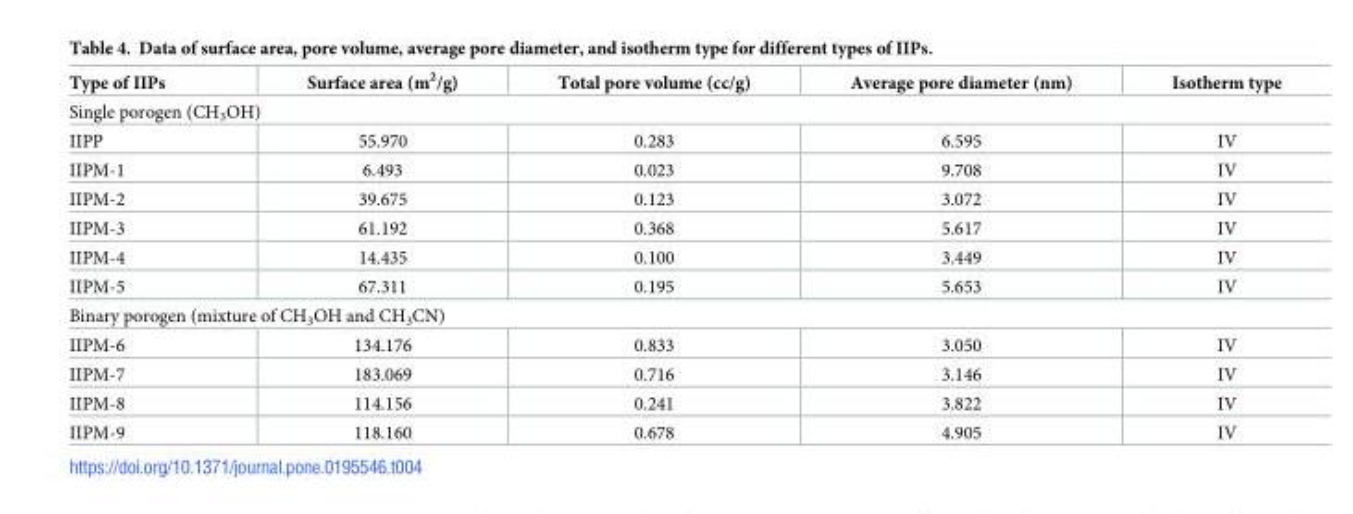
<table><thead><tr><td>Type of IIPs</td><td>Surface area (m<sup>2</sup>/g)</td><td>Total pore volume (cc/g)</td><td>Average pore diameter (nm)</td><td>Isotherm type</td></tr></thead><tbody><tr><td colspan="5">Single porogen (CH<sub>3</sub>OH)</td></tr><tr><td>IIPP</td><td>55.970</td><td>0.283</td><td>6.595</td><td>IV</td></tr><tr><td>IIPM-1</td><td>6.493</td><td>0.023</td><td>9.708</td><td>IV</td></tr><tr><td>IIPM-2</td><td>39.675</td><td>0.123</td><td>3.072</td><td>IV</td></tr><tr><td>IIPM-3</td><td>61.192</td><td>0.368</td><td>5.617</td><td>IV</td></tr><tr><td>IIPM-4</td><td>14.435</td><td>0.100</td><td>3.449</td><td>IV</td></tr><tr><td>IIPM-5</td><td>67.311</td><td>0.195</td><td>5.653</td><td>IV</td></tr><tr><td colspan="5">Binary porogen (mixture of CH<sub>3</sub>OH and CH<sub>3</sub>CN)</td></tr><tr><td>IIPM-6</td><td>134.176</td><td>0.833</td><td>3.050</td><td>IV</td></tr><tr><td>IIPM-7</td><td>183.069</td><td>0.716</td><td>3.146</td><td>IV</td></tr><tr><td>IIPM-8</td><td>114.156</td><td>0.241</td><td>3.822</td><td>IV</td></tr><tr><td>IIPM-9</td><td>118.160</td><td>0.678</td><td>4.905</td><td>IV</td></tr></tbody></table>